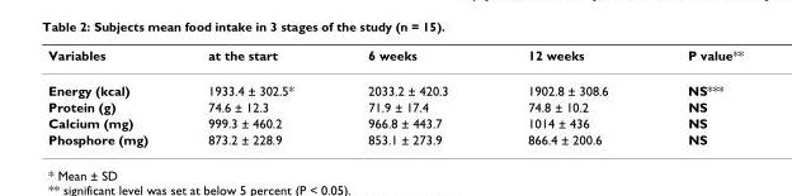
<table><thead><tr><td>Variables</td><td>at the start</td><td>6 weeks</td><td>12 weeks</td><td>P value**</td></tr></thead><tbody><tr><td>Energy (kcal)</td><td>1933.4 ± 302.5*</td><td>2033.2 ± 420.3</td><td>1902.8 ± 308.6</td><td>NS***</td></tr><tr><td>Protein (g)</td><td>74.6 ± 12.3</td><td>71.9 ± 17.4</td><td>74.8 ± 10.2</td><td>NS</td></tr><tr><td>Calcium (mg)</td><td>999.3 ± 460.2</td><td>966.8 ± 443.7</td><td>1014 ± 436</td><td>NS</td></tr><tr><td>Phosphore (mg)</td><td>873.2 ± 228.9</td><td>853.1 ± 273.9</td><td>866.4 ± 200.6</td><td>NS</td></tr></tbody></table>